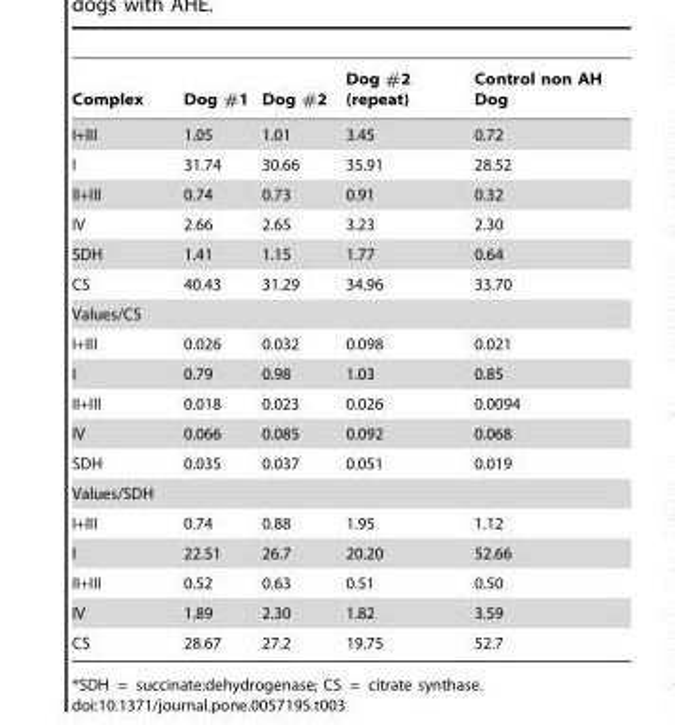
<table><thead><tr><td>Complex</td><td>Dog #1</td><td>Dog #2</td><td>Dog #2 (repeat)</td><td>Control non AH Dog</td></tr></thead><tbody><tr><td>I+III</td><td>1.05</td><td>1.01</td><td>3.45</td><td>0.72</td></tr><tr><td>I</td><td>31.74</td><td>30.66</td><td>35.91</td><td>28.52</td></tr><tr><td>II+III</td><td>0.74</td><td>0.73</td><td>0.91</td><td>0.32</td></tr><tr><td>IV</td><td>2.66</td><td>2.65</td><td>3.23</td><td>2.30</td></tr><tr><td>SDH</td><td>1.41</td><td>1.15</td><td>1.77</td><td>0.64</td></tr><tr><td>CS</td><td>40.43</td><td>31.29</td><td>34.96</td><td>33.70</td></tr><tr><td colspan="5">Values/CS</td></tr><tr><td>I+III</td><td>0.026</td><td>0.032</td><td>0.098</td><td>0.021</td></tr><tr><td>I</td><td>0.79</td><td>0.98</td><td>1.03</td><td>0.85</td></tr><tr><td>II+III</td><td>0.018</td><td>0.023</td><td>0.026</td><td>0.0094</td></tr><tr><td>IV</td><td>0.066</td><td>0.085</td><td>0.092</td><td>0.068</td></tr><tr><td>SDH</td><td>0.035</td><td>0.037</td><td>0.051</td><td>0.019</td></tr><tr><td colspan="5">Values/SDH</td></tr><tr><td>I+III</td><td>0.74</td><td>0.88</td><td>1.95</td><td>1.12</td></tr><tr><td>I</td><td>22.51</td><td>26.7</td><td>20.20</td><td>52.66</td></tr><tr><td>II+III</td><td>0.52</td><td>0.63</td><td>0.51</td><td>0.50</td></tr><tr><td>IV</td><td>1.89</td><td>2.30</td><td>1.82</td><td>3.59</td></tr><tr><td>CS</td><td>28.67</td><td>27.2</td><td>19.75</td><td>52.7</td></tr></tbody></table>